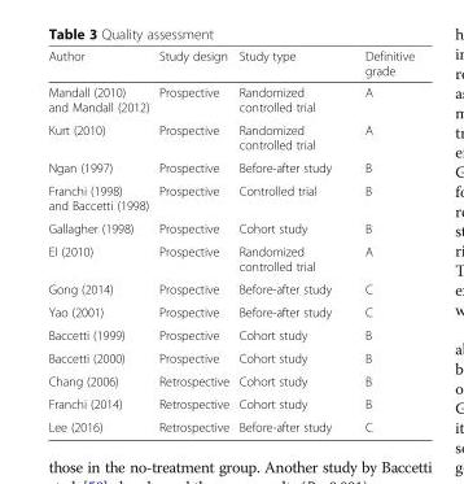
<table><thead><tr><td>Author</td><td>Study design</td><td>Study type</td><td>Definitive grade</td></tr></thead><tbody><tr><td>Mandall (2010) and Mandall (2012)</td><td>Prospective</td><td>Randomized controlled trial</td><td>A</td></tr><tr><td>Kurt (2010)</td><td>Prospective</td><td>Randomized controlled trial</td><td>A</td></tr><tr><td>Ngan (1997)</td><td>Prospective</td><td>Before-after study</td><td>B</td></tr><tr><td>Franchi (1998) and Baccetti (1998)</td><td>Prospective</td><td>Controlled trial</td><td>B</td></tr><tr><td>Gallagher (1998)</td><td>Prospective</td><td>Cohort study</td><td>B</td></tr><tr><td>EI (2010)</td><td>Prospective</td><td>Randomized controlled trial</td><td>A</td></tr><tr><td>Gong (2014)</td><td>Prospective</td><td>Before-after study</td><td>C</td></tr><tr><td>Yao (2001)</td><td>Prospective</td><td>Before-after study</td><td>C</td></tr><tr><td>Baccetti (1999)</td><td>Prospective</td><td>Cohort study</td><td>B</td></tr><tr><td>Baccetti (2000)</td><td>Prospective</td><td>Cohort study</td><td>B</td></tr><tr><td>Chang (2006)</td><td>Retrospective</td><td>Cohort study</td><td>B</td></tr><tr><td>Franchi (2014)</td><td>Retrospective</td><td>Cohort study</td><td>B</td></tr><tr><td>Lee (2016)</td><td>Retrospective</td><td>Before-after study</td><td>C</td></tr></tbody></table>